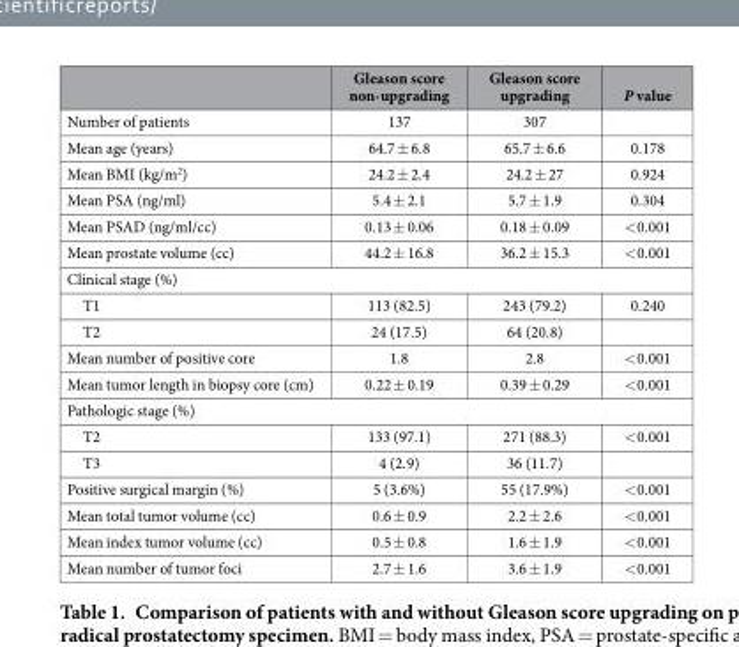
<table><thead><tr><td></td><td>Gleason score non-upgrading</td><td>Gleason score upgrading</td><td>P value</td></tr></thead><tbody><tr><td>Number of patients</td><td>137</td><td>307</td><td></td></tr><tr><td>Mean age (years)</td><td>64.7 ± 6.8</td><td>65.7 ± 6.6</td><td>0.178</td></tr><tr><td>Mean BMI (kg/m<sup>2</sup>)</td><td>24.2 ± 2.4</td><td>24.2 ± 27</td><td>0.924</td></tr><tr><td>Mean PSA (ng/ml)</td><td>5.4 ± 2.1</td><td>5.7 ± 1.9</td><td>0.304</td></tr><tr><td>Mean PSAD (ng/ml/cc)</td><td>0.13 ± 0.06</td><td>0.18 ± 0.09</td><td>&lt; 0.001</td></tr><tr><td>Mean prostate volume (cc)</td><td>44.2 ± 16.8</td><td>36.2 ± 15.3</td><td>&lt; 0.001</td></tr><tr><td colspan="4">Clinical stage (%)</td></tr><tr><td>T1</td><td>113 (82.5)</td><td>243 (79.2)</td><td>0.240</td></tr><tr><td>T2</td><td>24 (17.5)</td><td>64 (20.8)</td><td></td></tr><tr><td>Mean number of positive core</td><td>1.8</td><td>2.8</td><td>&lt; 0.001</td></tr><tr><td>Mean tumor length in biopsy core (cm)</td><td>0.22 ± 0.19</td><td>0.39 ± 0.29</td><td>&lt; 0.001</td></tr><tr><td colspan="4">Pathologic stage (%)</td></tr><tr><td>T2</td><td>133 (97.1)</td><td>271 (88.3)</td><td>&lt; 0.001</td></tr><tr><td>T3</td><td>4 (2.9)</td><td>36 (11.7)</td><td></td></tr><tr><td>Positive surgical margin (%)</td><td>5 (3.6%)</td><td>55 (17.9%)</td><td>&lt; 0.001</td></tr><tr><td>Mean total tumor volume (cc)</td><td>0.6 ± 0.9</td><td>2.2 ± 2.6</td><td>&lt; 0.001</td></tr><tr><td>Mean index tumor volume (cc)</td><td>0.5 ± 0.8</td><td>1.6 ± 1.9</td><td>&lt; 0.001</td></tr><tr><td>Mean number of tumor foci</td><td>2.7 ± 1.6</td><td>3.6 ± 1.9</td><td>&lt; 0.001</td></tr></tbody></table>